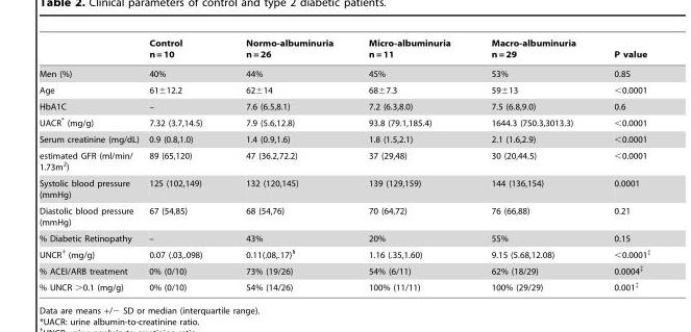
<table><thead><tr><td></td><td>Control n = 10</td><td>Normo-albuminuria n = 26</td><td>Micro-albuminuria n = 11</td><td>Macro-albuminuria n = 29</td><td>P value</td></tr></thead><tbody><tr><td>Men (%)</td><td>40%</td><td>44%</td><td>45%</td><td>53%</td><td>0.85</td></tr><tr><td>Age</td><td>61±12.2</td><td>62±14</td><td>68±7.3</td><td>59±13</td><td>&lt;0.0001</td></tr><tr><td>HbA1C</td><td>–</td><td>7.6 (6.5,8.1)</td><td>7.2 (6.3,8.0)</td><td>7.5 (6.8,9.0)</td><td>0.6</td></tr><tr><td>UACR* (mg/g)</td><td>7.32 (3.7,14.5)</td><td>7.9 (5.6,12.8)</td><td>93.8 (79.1,185.4)</td><td>1644.3 (750.3,3013.3)</td><td>&lt;0.0001</td></tr><tr><td>Serum creatinine (mg/dL)</td><td>0.9 (0.8,1.0)</td><td>1.4 (0.9,1.6)</td><td>1.8 (1.5,2.1)</td><td>2.1 (1.6,2.9)</td><td>&lt;0.0001</td></tr><tr><td>estimated GFR (ml/min/ 1.73m<sup>2</sup>)</td><td>89 (65,120)</td><td>47 (36.2,72.2)</td><td>37 (29,48)</td><td>30 (20,44.5)</td><td>&lt;0.0001</td></tr><tr><td>Systolic blood pressure (mmHg)</td><td>125 (102,149)</td><td>132 (120,145)</td><td>139 (129,159)</td><td>144 (136,154)</td><td>0.0001</td></tr><tr><td>Diastolic blood pressure (mmHg)</td><td>67 (54,85)</td><td>68 (54,76)</td><td>70 (64,72)</td><td>76 (66,88)</td><td>0.21</td></tr><tr><td>% Diabetic Retinopathy</td><td>–</td><td>43%</td><td>20%</td><td>55%</td><td>0.15</td></tr><tr><td>UNCR† (mg/g)</td><td>0.07 (.03,.098)</td><td>0.11(.08,.17)§</td><td>1.16 (.35,1.60)</td><td>9.15 (5.68,12.08)</td><td>&lt;0.0001‡</td></tr><tr><td>% ACEI/ARB treatment</td><td>0% (0/10)</td><td>73% (19/26)</td><td>54% (6/11)</td><td>62% (18/29)</td><td>0.0004‡</td></tr><tr><td>% UNCR &gt;0.1 (mg/g)</td><td>0% (0/10)</td><td>54% (14/26)</td><td>100% (11/11)</td><td>100% (29/29)</td><td>0.001‡</td></tr></tbody></table>